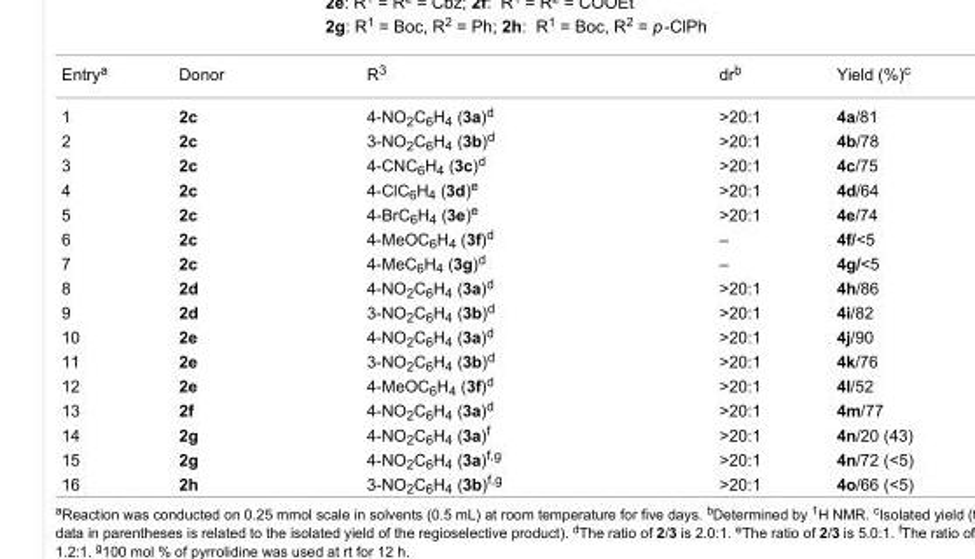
<table><tbody><tr><td>Entry<sup>a</sup></td><td>Donor</td><td>R<sup>3</sup></td><td>dr<sup>b</sup></td><td>Yield (%)<sup>c</sup></td></tr><tr><td>1</td><td>2c</td><td>4-NO<sub>2</sub>C<sub>6</sub>H<sub>4</sub> (3a)<sup>d</sup></td><td>&gt;20:1</td><td>4a/81</td></tr><tr><td>2</td><td>2c</td><td>3-NO<sub>2</sub>C<sub>6</sub>H<sub>4</sub> (3b)<sup>d</sup></td><td>&gt;20:1</td><td>4b/78</td></tr><tr><td>3</td><td>2c</td><td>4-CNC<sub>6</sub>H<sub>4</sub> (3c)<sup>d</sup></td><td>&gt;20:1</td><td>4c/75</td></tr><tr><td>4</td><td>2c</td><td>4-ClC<sub>6</sub>H<sub>4</sub> (3d)<sup>e</sup></td><td>&gt;20:1</td><td>4d/64</td></tr><tr><td>5</td><td>2c</td><td>4-BrC<sub>6</sub>H<sub>4</sub> (3e)<sup>e</sup></td><td>&gt;20:1</td><td>4e/74</td></tr><tr><td>6</td><td>2c</td><td>4-MeOC<sub>6</sub>H<sub>4</sub> (3f)<sup>d</sup></td><td>–</td><td>4f/&lt;5</td></tr><tr><td>7</td><td>2c</td><td>4-MeC<sub>6</sub>H<sub>4</sub> (3g)<sup>d</sup></td><td>–</td><td>4g/&lt;5</td></tr><tr><td>8</td><td>2d</td><td>4-NO<sub>2</sub>C<sub>6</sub>H<sub>4</sub> (3a)<sup>d</sup></td><td>&gt;20:1</td><td>4h/86</td></tr><tr><td>9</td><td>2d</td><td>3-NO<sub>2</sub>C<sub>6</sub>H<sub>4</sub> (3b)<sup>d</sup></td><td>&gt;20:1</td><td>4i/82</td></tr><tr><td>10</td><td>2e</td><td>4-NO<sub>2</sub>C<sub>6</sub>H<sub>4</sub> (3a)<sup>d</sup></td><td>&gt;20:1</td><td>4j/90</td></tr><tr><td>11</td><td>2e</td><td>3-NO<sub>2</sub>C<sub>6</sub>H<sub>4</sub> (3b)<sup>d</sup></td><td>&gt;20:1</td><td>4k/76</td></tr><tr><td>12</td><td>2e</td><td>4-MeOC<sub>6</sub>H<sub>4</sub> (3f)<sup>d</sup></td><td>&gt;20:1</td><td>4l/52</td></tr><tr><td>13</td><td>2f</td><td>4-NO<sub>2</sub>C<sub>6</sub>H<sub>4</sub> (3a)<sup>d</sup></td><td>&gt;20:1</td><td>4m/77</td></tr><tr><td>14</td><td>2g</td><td>4-NO<sub>2</sub>C<sub>6</sub>H<sub>4</sub> (3a)<sup>f</sup></td><td>&gt;20:1</td><td>4n/20 (43)</td></tr><tr><td>15</td><td>2g</td><td>4-NO<sub>2</sub>C<sub>6</sub>H<sub>4</sub> (3a)<sup>f,g</sup></td><td>&gt;20:1</td><td>4n/72 (&lt;5)</td></tr><tr><td>16</td><td>2h</td><td>3-NO<sub>2</sub>C<sub>6</sub>H<sub>4</sub> (3b)<sup>f,g</sup></td><td>&gt;20:1</td><td>4o/66 (&lt;5)</td></tr></tbody></table>